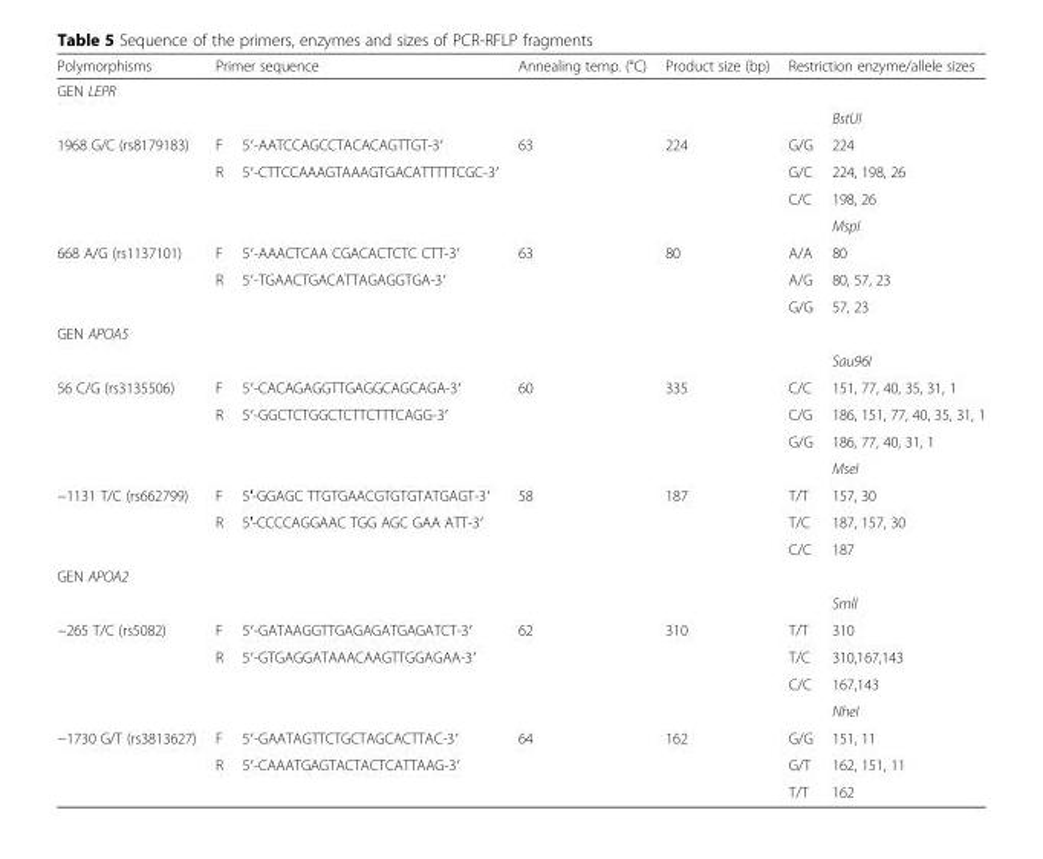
<table><thead><tr><td>Polymorphisms</td><td colspan="2">Primer sequence</td><td>Annealing temp. (°C)</td><td>Product size (bp)</td><td colspan="2">Restriction enzyme/allele sizes</td></tr><tr><td colspan="7">GEN LEPR</td></tr><tr><td></td><td></td><td></td><td></td><td></td><td></td><td>BstUI</td></tr></thead><tbody><tr><td rowspan="4">1968 G/C (rs8179183)</td><td>F</td><td>5′-AATCCAGCCTACACAGTTGT-3′</td><td rowspan="3">63</td><td rowspan="3">224</td><td>G/G</td><td>224</td></tr><tr><td rowspan="2">R</td><td rowspan="2">5′-CTTCCAAAGTAAAGTGACATTTTTCGC-3′</td><td>G/C</td><td>224, 198, 26</td></tr><tr><td>C/C</td><td>198, 26</td></tr><tr><td></td><td></td><td></td><td></td><td></td><td>MspI</td></tr><tr><td rowspan="3">668 A/G (rs1137101)</td><td>F</td><td>5′-AAACTCAA CGACACTCTC CTT-3′</td><td rowspan="3">63</td><td rowspan="3">80</td><td>A/A</td><td>80</td></tr><tr><td rowspan="2">R</td><td rowspan="2">5′-TGAACTGACATTAGAGGTGA-3′</td><td>A/G</td><td>80, 57, 23</td></tr><tr><td>G/G</td><td>57, 23</td></tr><tr><td colspan="7">GEN APOA5</td></tr><tr><td></td><td></td><td></td><td></td><td></td><td></td><td>Sau96I</td></tr><tr><td rowspan="4">56 C/G (rs3135506)</td><td>F</td><td>5′-CACAGAGGTTGAGGCAGCAGA-3′</td><td rowspan="3">60</td><td rowspan="3">335</td><td>C/C</td><td>151, 77, 40, 35, 31, 1</td></tr><tr><td rowspan="2">R</td><td rowspan="2">5′-GGCTCTGGCTCTTCTTTCAGG-3′</td><td>C/G</td><td>186, 151, 77, 40, 35, 31, 1</td></tr><tr><td>G/G</td><td>186, 77, 40, 31, 1</td></tr><tr><td></td><td></td><td></td><td></td><td></td><td>MseI</td></tr><tr><td rowspan="3">−1131 T/C (rs662799)</td><td>F</td><td>5′-GGAGC TTGTGAACGTGTGTATGAGT-3′</td><td rowspan="3">58</td><td rowspan="3">187</td><td>T/T</td><td>157, 30</td></tr><tr><td rowspan="2">R</td><td rowspan="2">5′-CCCCAGGAAC TGG AGC GAA ATT-3′</td><td>T/C</td><td>187, 157, 30</td></tr><tr><td>C/C</td><td>187</td></tr><tr><td colspan="7">GEN APOA2</td></tr><tr><td></td><td></td><td></td><td></td><td></td><td></td><td>SmlI</td></tr><tr><td rowspan="4">−265 T/C (rs5082)</td><td>F</td><td>5′-GATAAGGTTGAGAGATGAGATCT-3′</td><td rowspan="4">62</td><td rowspan="4">310</td><td>T/T</td><td>310</td></tr><tr><td rowspan="2">R</td><td rowspan="2">5′-GTGAGGATAAACAAGTTGGAGAA-3′</td><td>T/C</td><td>310,167,143</td></tr><tr><td>C/C</td><td>167,143</td></tr><tr><td></td><td></td><td></td><td>NheI</td></tr><tr><td rowspan="3">−1730 G/T (rs3813627)</td><td>F</td><td>5′-GAATAGTTCTGCTAGCACTTAC-3′</td><td rowspan="3">64</td><td rowspan="3">162</td><td>G/G</td><td>151, 11</td></tr><tr><td rowspan="2">R</td><td rowspan="2">5′-CAAATGAGTACTACTCATTAAG-3′</td><td>G/T</td><td>162, 151, 11</td></tr><tr><td>T/T</td><td>162</td></tr></tbody></table>